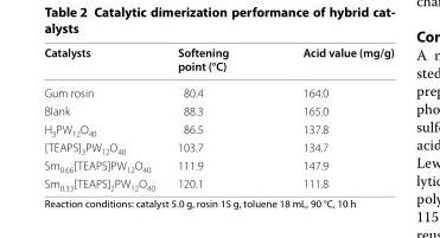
<table><thead><tr><td>Catalysts</td><td>Softening point (°C)</td><td>Acid value (mg/g)</td></tr></thead><tbody><tr><td>Gum rosin</td><td>80.4</td><td>164.0</td></tr><tr><td>Blank</td><td>88.3</td><td>165.0</td></tr><tr><td>H<sub>3</sub>PW<sub>12</sub>O<sub>40</sub></td><td>86.5</td><td>137.8</td></tr><tr><td>[TEAPS]<sub>3</sub>PW<sub>12</sub>O<sub>40</sub></td><td>103.7</td><td>134.7</td></tr><tr><td>Sm<sub>0.66</sub>[TEAPS]PW<sub>12</sub>O<sub>40</sub></td><td>111.9</td><td>147.9</td></tr><tr><td>Sm<sub>0.33</sub>[TEAPS]<sub>2</sub>PW<sub>12</sub>O<sub>40</sub></td><td>120.1</td><td>111.8</td></tr></tbody></table>